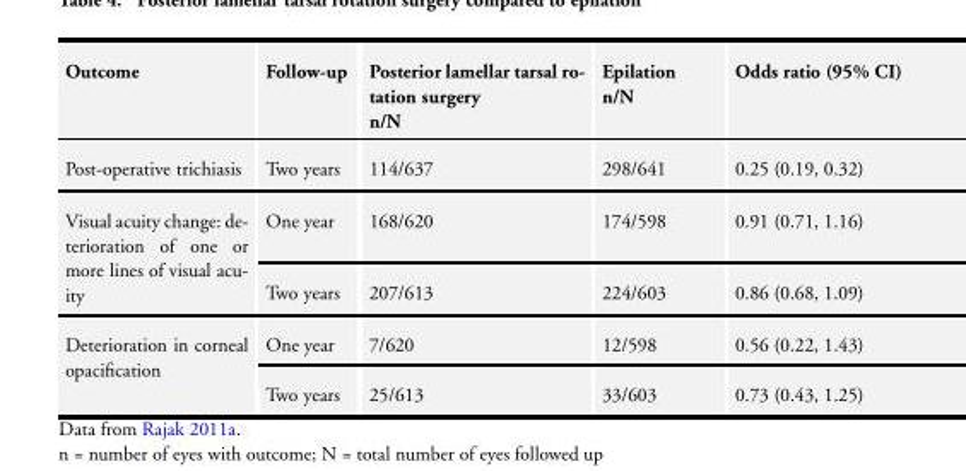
<table><tbody><tr><td>Outcome</td><td>Follow-up</td><td>Posterior lamellar tarsal ro- tation surgery n/N</td><td>Epilation n/N</td><td>Odds ratio (95% CI)</td></tr><tr><td>Post-operative trichiasis</td><td>Two years</td><td>114/637</td><td>298/641</td><td>0.25 (0.19, 0.32)</td></tr><tr><td rowspan="2">Visual acuity change: de- terioration of one or more lines of visual acu- ity</td><td>One year</td><td>168/620</td><td>174/598</td><td>0.91 (0.71, 1.16)</td></tr><tr><td>Two years</td><td>207/613</td><td>224/603</td><td>0.86 (0.68, 1.09)</td></tr><tr><td rowspan="2">Deterioration in corneal opacification</td><td>One year</td><td>7/620</td><td>12/598</td><td>0.56 (0.22, 1.43)</td></tr><tr><td>Two years</td><td>25/613</td><td>33/603</td><td>0.73 (0.43, 1.25)</td></tr></tbody></table>